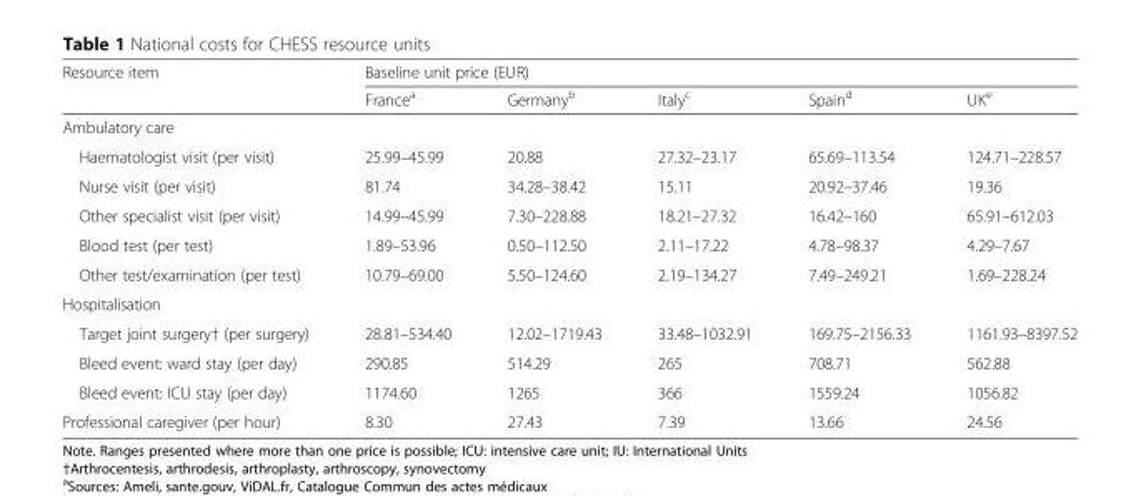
<table><thead><tr><td rowspan="2">Resource item</td><td colspan="5">Baseline unit price (EUR)</td></tr><tr><td>France<sup>a</sup></td><td>Germany<sup>b</sup></td><td>Italy<sup>c</sup></td><td>Spain<sup>d</sup></td><td>UK<sup>e</sup></td></tr></thead><tbody><tr><td colspan="6">Ambulatory care</td></tr><tr><td>Haematologist visit (per visit)</td><td>25.99–45.99</td><td>20.88</td><td>27.32–23.17</td><td>65.69–113.54</td><td>124.71–228.57</td></tr><tr><td>Nurse visit (per visit)</td><td>81.74</td><td>34.28–38.42</td><td>15.11</td><td>20.92–37.46</td><td>19.36</td></tr><tr><td>Other specialist visit (per visit)</td><td>14.99–45.99</td><td>7.30–228.88</td><td>18.21–27.32</td><td>16.42–160</td><td>65.91–612.03</td></tr><tr><td>Blood test (per test)</td><td>1.89–53.96</td><td>0.50–112.50</td><td>2.11–17.22</td><td>4.78–98.37</td><td>4.29–7.67</td></tr><tr><td>Other test/examination (per test)</td><td>10.79–69.00</td><td>5.50–124.60</td><td>2.19–134.27</td><td>7.49–249.21</td><td>1.69–228.24</td></tr><tr><td colspan="6">Hospitalisation</td></tr><tr><td>Target joint surgery† (per surgery)</td><td>28.81–534.40</td><td>12.02–1719.43</td><td>33.48–1032.91</td><td>169.75–2156.33</td><td>1161.93–8397.52</td></tr><tr><td>Bleed event: ward stay (per day)</td><td>290.85</td><td>514.29</td><td>265</td><td>708.71</td><td>562.88</td></tr><tr><td>Bleed event: ICU stay (per day)</td><td>1174.60</td><td>1265</td><td>366</td><td>1559.24</td><td>1056.82</td></tr><tr><td>Professional caregiver (per hour)</td><td>8.30</td><td>27.43</td><td>7.39</td><td>13.66</td><td>24.56</td></tr></tbody></table>